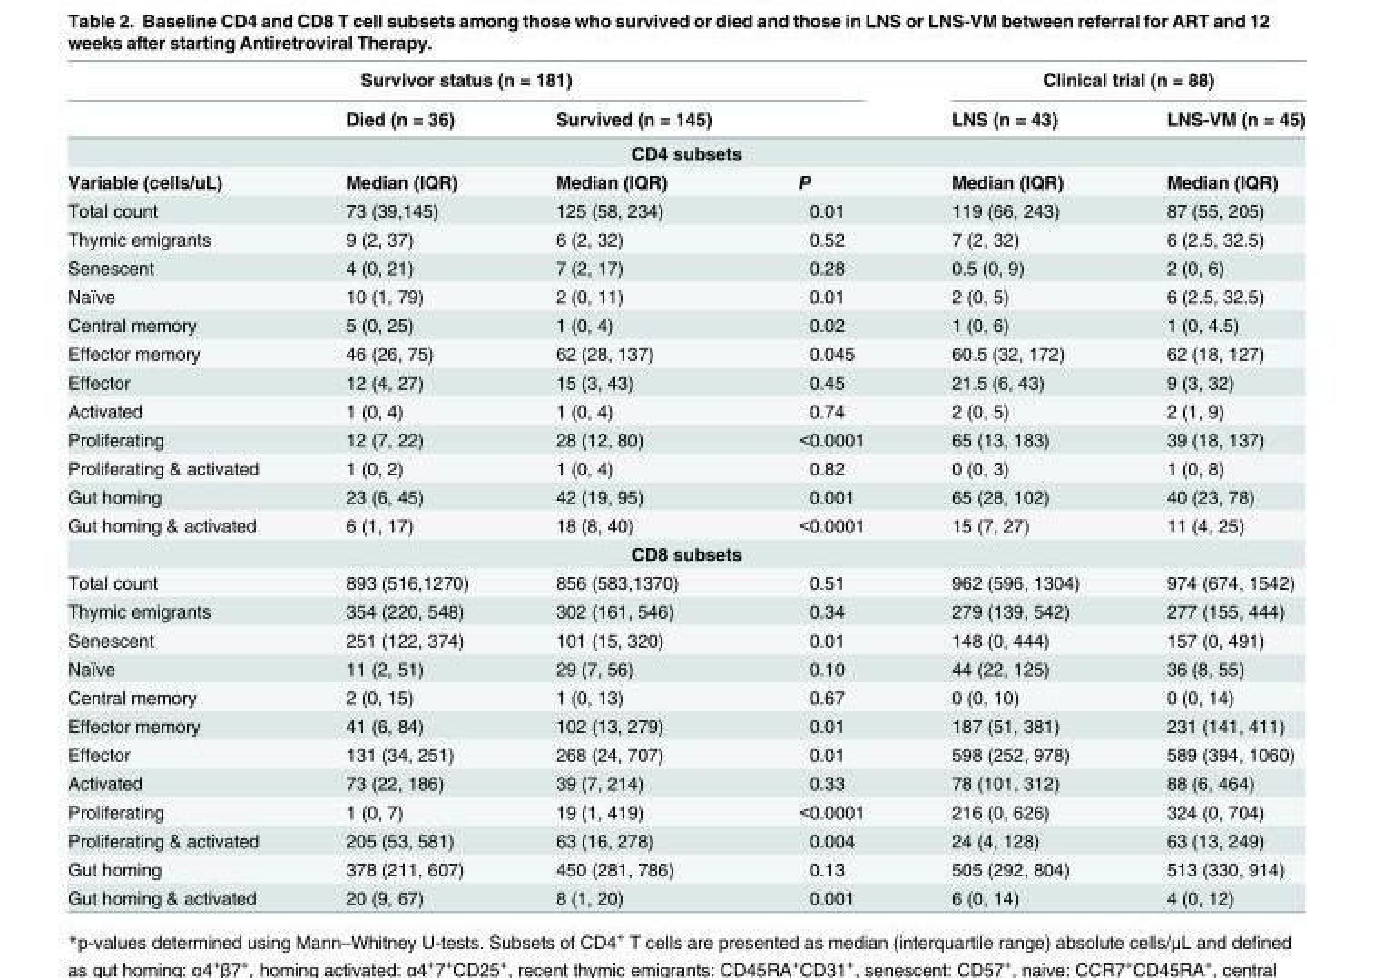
<table><thead><tr><td colspan="4">Survivor status (n = 181)</td><td colspan="2">Clinical trial (n = 88)</td></tr><tr><td></td><td>Died (n = 36)</td><td>Survived (n = 145)</td><td></td><td>LNS (n = 43)</td><td>LNS-VM (n = 45)</td></tr></thead><tbody><tr><td colspan="6">CD4 subsets</td></tr><tr><td>Variable (cells/uL)</td><td>Median (IQR)</td><td>Median (IQR)</td><td>P</td><td>Median (IQR)</td><td>Median (IQR)</td></tr><tr><td>Total count</td><td>73 (39,145)</td><td>125 (58, 234)</td><td>0.01</td><td>119 (66, 243)</td><td>87 (55, 205)</td></tr><tr><td>Thymic emigrants</td><td>9 (2, 37)</td><td>6 (2, 32)</td><td>0.52</td><td>7 (2, 32)</td><td>6 (2.5, 32.5)</td></tr><tr><td>Senescent</td><td>4 (0, 21)</td><td>7 (2, 17)</td><td>0.28</td><td>0.5 (0, 9)</td><td>2 (0, 6)</td></tr><tr><td>Naïve</td><td>10 (1, 79)</td><td>2 (0, 11)</td><td>0.01</td><td>2 (0, 5)</td><td>6 (2.5, 32.5)</td></tr><tr><td>Central memory</td><td>5 (0, 25)</td><td>1 (0, 4)</td><td>0.02</td><td>1 (0, 6)</td><td>1 (0, 4.5)</td></tr><tr><td>Effector memory</td><td>46 (26, 75)</td><td>62 (28, 137)</td><td>0.045</td><td>60.5 (32, 172)</td><td>62 (18, 127)</td></tr><tr><td>Effector</td><td>12 (4, 27)</td><td>15 (3, 43)</td><td>0.45</td><td>21.5 (6, 43)</td><td>9 (3, 32)</td></tr><tr><td>Activated</td><td>1 (0, 4)</td><td>1 (0, 4)</td><td>0.74</td><td>2 (0, 5)</td><td>2 (1, 9)</td></tr><tr><td>Proliferating</td><td>12 (7, 22)</td><td>28 (12, 80)</td><td>&lt;0.0001</td><td>65 (13, 183)</td><td>39 (18, 137)</td></tr><tr><td>Proliferating &amp; activated</td><td>1 (0, 2)</td><td>1 (0, 4)</td><td>0.82</td><td>0 (0, 3)</td><td>1 (0, 8)</td></tr><tr><td>Gut homing</td><td>23 (6, 45)</td><td>42 (19, 95)</td><td>0.001</td><td>65 (28, 102)</td><td>40 (23, 78)</td></tr><tr><td>Gut homing &amp; activated</td><td>6 (1, 17)</td><td>18 (8, 40)</td><td>&lt;0.0001</td><td>15 (7, 27)</td><td>11 (4, 25)</td></tr><tr><td colspan="6">CD8 subsets</td></tr><tr><td>Total count</td><td>893 (516,1270)</td><td>856 (583,1370)</td><td>0.51</td><td>962 (596, 1304)</td><td>974 (674, 1542)</td></tr><tr><td>Thymic emigrants</td><td>354 (220, 548)</td><td>302 (161, 546)</td><td>0.34</td><td>279 (139, 542)</td><td>277 (155, 444)</td></tr><tr><td>Senescent</td><td>251 (122, 374)</td><td>101 (15, 320)</td><td>0.01</td><td>148 (0, 444)</td><td>157 (0, 491)</td></tr><tr><td>Naïve</td><td>11 (2, 51)</td><td>29 (7, 56)</td><td>0.10</td><td>44 (22, 125)</td><td>36 (8, 55)</td></tr><tr><td>Central memory</td><td>2 (0, 15)</td><td>1 (0, 13)</td><td>0.67</td><td>0 (0, 10)</td><td>0 (0, 14)</td></tr><tr><td>Effector memory</td><td>41 (6, 84)</td><td>102 (13, 279)</td><td>0.01</td><td>187 (51, 381)</td><td>231 (141, 411)</td></tr><tr><td>Effector</td><td>131 (34, 251)</td><td>268 (24, 707)</td><td>0.01</td><td>598 (252, 978)</td><td>589 (394, 1060)</td></tr><tr><td>Activated</td><td>73 (22, 186)</td><td>39 (7, 214)</td><td>0.33</td><td>78 (101, 312)</td><td>88 (6, 464)</td></tr><tr><td>Proliferating</td><td>1 (0, 7)</td><td>19 (1, 419)</td><td>&lt;0.0001</td><td>216 (0, 626)</td><td>324 (0, 704)</td></tr><tr><td>Proliferating &amp; activated</td><td>205 (53, 581)</td><td>63 (16, 278)</td><td>0.004</td><td>24 (4, 128)</td><td>63 (13, 249)</td></tr><tr><td>Gut homing</td><td>378 (211, 607)</td><td>450 (281, 786)</td><td>0.13</td><td>505 (292, 804)</td><td>513 (330, 914)</td></tr><tr><td>Gut homing &amp; activated</td><td>20 (9, 67)</td><td>8 (1, 20)</td><td>0.001</td><td>6 (0, 14)</td><td>4 (0, 12)</td></tr></tbody></table>